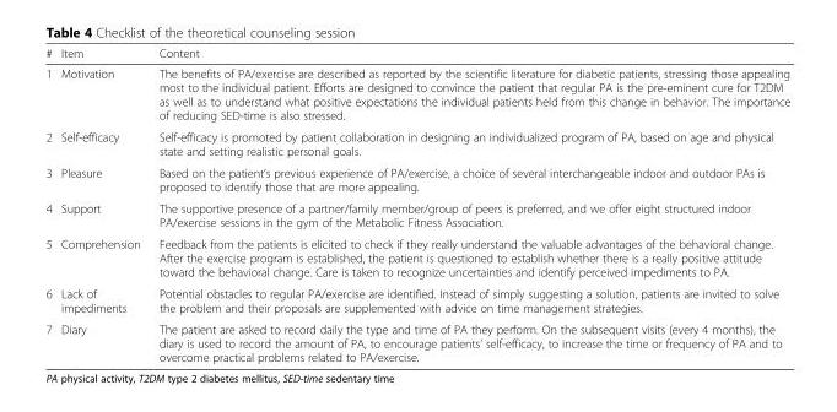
<table><thead><tr><td>#</td><td>Item</td><td>Content</td></tr></thead><tbody><tr><td>1</td><td>Motivation</td><td>The benefits of PA/exercise are described as reported by the scientific literature for diabetic patients, stressing those appealing most to the individual patient. Efforts are designed to convince the patient that regular PA is the pre-eminent cure for T2DM as well as to understand what positive expectations the individual patients held from this change in behavior. The importance of reducing SED-time is also stressed.</td></tr><tr><td>2</td><td>Self-efficacy</td><td>Self-efficacy is promoted by patient collaboration in designing an individualized program of PA, based on age and physical state and setting realistic personal goals.</td></tr><tr><td>3</td><td>Pleasure</td><td>Based on the patient’s previous experience of PA/exercise, a choice of several interchangeable indoor and outdoor PAs is proposed to identify those that are more appealing.</td></tr><tr><td>4</td><td>Support</td><td>The supportive presence of a partner/family member/group of peers is preferred, and we offer eight structured indoor PA/exercise sessions in the gym of the Metabolic Fitness Association.</td></tr><tr><td>5</td><td>Comprehension</td><td>Feedback from the patients is elicited to check if they really understand the valuable advantages of the behavioral change. After the exercise program is established, the patient is questioned to establish whether there is a really positive attitude toward the behavioral change. Care is taken to recognize uncertainties and identify perceived impediments to PA.</td></tr><tr><td>6</td><td>Lack of impediments</td><td>Potential obstacles to regular PA/exercise are identified. Instead of simply suggesting a solution, patients are invited to solve the problem and their proposals are supplemented with advice on time management strategies.</td></tr><tr><td>7</td><td>Diary</td><td>The patient are asked to record daily the type and time of PA they perform. On the subsequent visits (every 4 months), the diary is used to record the amount of PA, to encourage patients’ self-efficacy, to increase the time or frequency of PA and to overcome practical problems related to PA/exercise.</td></tr></tbody></table>